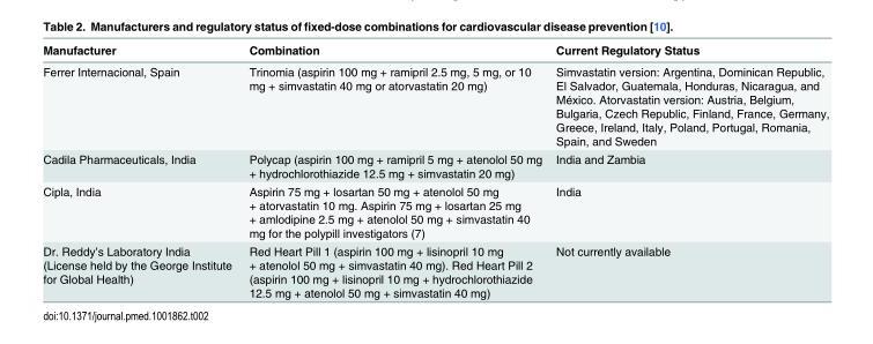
<table><thead><tr><td>Manufacturer</td><td>Combination</td><td>Current Regulatory Status</td></tr></thead><tbody><tr><td>Ferrer Internacional, Spain</td><td>Trinomia (aspirin 100 mg + ramipril 2.5 mg, 5 mg, or 10 mg + simvastatin 40 mg or atorvastatin 20 mg)</td><td>Simvastatin version: Argentina, Dominican Republic, El Salvador, Guatemala, Honduras, Nicaragua, and México. Atorvastatin version: Austria, Belgium, Bulgaria, Czech Republic, Finland, France, Germany, Greece, Ireland, Italy, Poland, Portugal, Romania, Spain, and Sweden</td></tr><tr><td>Cadila Pharmaceuticals, India</td><td>Polycap (aspirin 100 mg + ramipril 5 mg + atenolol 50 mg + hydrochlorothiazide 12.5 mg + simvastatin 20 mg)</td><td>India and Zambia</td></tr><tr><td>Cipla, India</td><td>Aspirin 75 mg + losartan 50 mg + atenolol 50 mg + atorvastatin 10 mg. Aspirin 75 mg + losartan 25 mg + amlodipine 2.5 mg + atenolol 50 mg + simvastatin 40 mg for the polypill investigators (7)</td><td>India</td></tr><tr><td>Dr. Reddy’s Laboratory India (License held by the George Institute for Global Health)</td><td>Red Heart Pill 1 (aspirin 100 mg + lisinopril 10 mg + atenolol 50 mg + simvastatin 40 mg). Red Heart Pill 2 (aspirin 100 mg + lisinopril 10 mg + hydrochlorothiazide 12.5 mg + atenolol 50 mg + simvastatin 40 mg)</td><td>Not currently available</td></tr></tbody></table>